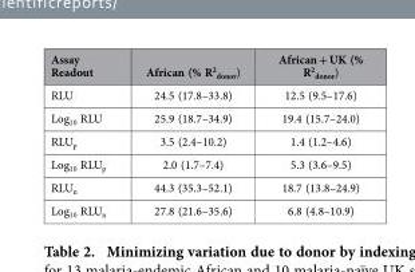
<table><thead><tr><td>Assay Readout</td><td>African (% R<sup>2</sup> <sub>donor</sub>)</td><td>African + UK (% R<sup>2</sup> <sub>donor</sub>)</td></tr></thead><tbody><tr><td>RLU</td><td>24.5 (17.8–33.8)</td><td>12.5 (9.5–17.6)</td></tr><tr><td>Log<sub>10</sub> RLU</td><td>25.9 (18.7–34.9)</td><td>19.4 (15.7–24.0)</td></tr><tr><td>RLU<sub>p</sub></td><td>3.5 (2.4–10.2)</td><td>1.4 (1.2–4.6)</td></tr><tr><td>Log<sub>10</sub> RLU<sub>p</sub></td><td>2.0 (1.7–7.4)</td><td>5.3 (3.6–9.5)</td></tr><tr><td>RLU<sub>n</sub></td><td>44.3 (35.3–52.1)</td><td>18.7 (13.8–24.9)</td></tr><tr><td>Log<sub>10</sub> RLU<sub>n</sub></td><td>27.8 (21.6–35.6)</td><td>6.8 (4.8–10.9)</td></tr></tbody></table>